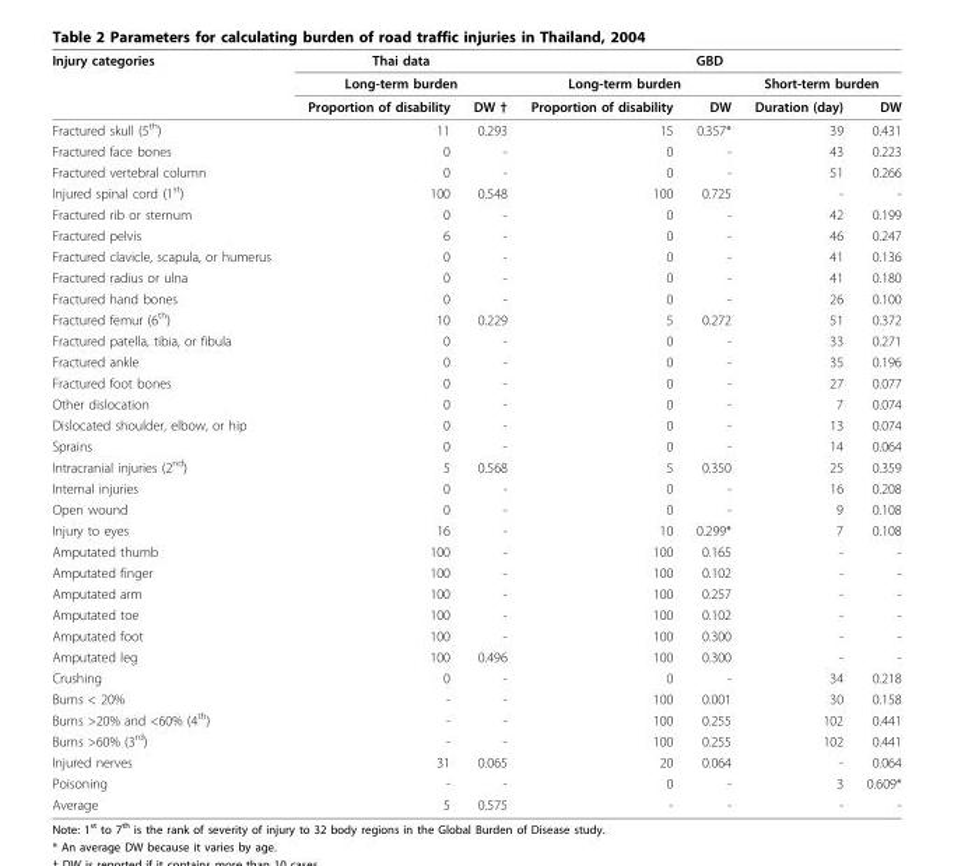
<table><thead><tr><td rowspan="3">Injury categories</td><td rowspan="2" colspan="2">Thai data Long-term burden</td><td colspan="4">GBD</td></tr><tr><td colspan="2">Long-term burden</td><td colspan="2">Short-term burden</td></tr><tr><td>Proportion of disability</td><td>DW †</td><td>Proportion of disability</td><td>DW</td><td>Duration (day)</td><td>DW</td></tr></thead><tbody><tr><td>Fractured skull (5<sup>th</sup>)</td><td>11</td><td>0.293</td><td>15</td><td>0.357*</td><td>39</td><td>0.431</td></tr><tr><td>Fractured face bones</td><td>0</td><td>-</td><td>0</td><td>-</td><td>43</td><td>0.223</td></tr><tr><td>Fractured vertebral column</td><td>0</td><td>-</td><td>0</td><td>-</td><td>51</td><td>0.266</td></tr><tr><td>Injured spinal cord (1<sup>st</sup>)</td><td>100</td><td>0.548</td><td>100</td><td>0.725</td><td>-</td><td>-</td></tr><tr><td>Fractured rib or sternum</td><td>0</td><td>-</td><td>0</td><td>-</td><td>42</td><td>0.199</td></tr><tr><td>Fractured pelvis</td><td>6</td><td>-</td><td>0</td><td>-</td><td>46</td><td>0.247</td></tr><tr><td>Fractured clavicle, scapula, or humerus</td><td>0</td><td>-</td><td>0</td><td>-</td><td>41</td><td>0.136</td></tr><tr><td>Fractured radius or ulna</td><td>0</td><td>-</td><td>0</td><td>-</td><td>41</td><td>0.180</td></tr><tr><td>Fractured hand bones</td><td>0</td><td>-</td><td>0</td><td>-</td><td>26</td><td>0.100</td></tr><tr><td>Fractured femur (6<sup>th</sup>)</td><td>10</td><td>0.229</td><td>5</td><td>0.272</td><td>51</td><td>0.372</td></tr><tr><td>Fractured patella, tibia, or fibula</td><td>0</td><td>-</td><td>0</td><td>-</td><td>33</td><td>0.271</td></tr><tr><td>Fractured ankle</td><td>0</td><td>-</td><td>0</td><td>-</td><td>35</td><td>0.196</td></tr><tr><td>Fractured foot bones</td><td>0</td><td>-</td><td>0</td><td>-</td><td>27</td><td>0.077</td></tr><tr><td>Other dislocation</td><td>0</td><td>-</td><td>0</td><td>-</td><td>7</td><td>0.074</td></tr><tr><td>Dislocated shoulder, elbow, or hip</td><td>0</td><td>-</td><td>0</td><td>-</td><td>13</td><td>0.074</td></tr><tr><td>Sprains</td><td>0</td><td>-</td><td>0</td><td>-</td><td>14</td><td>0.064</td></tr><tr><td>Intracranial injuries (2<sup>nd</sup>)</td><td>5</td><td>0.568</td><td>5</td><td>0.350</td><td>25</td><td>0.359</td></tr><tr><td>Internal injuries</td><td>0</td><td>-</td><td>0</td><td>-</td><td>16</td><td>0.208</td></tr><tr><td>Open wound</td><td>0</td><td>-</td><td>0</td><td>-</td><td>9</td><td>0.108</td></tr><tr><td>Injury to eyes</td><td>16</td><td>-</td><td>10</td><td>0.299*</td><td>7</td><td>0.108</td></tr><tr><td>Amputated thumb</td><td>100</td><td>-</td><td>100</td><td>0.165</td><td>-</td><td>-</td></tr><tr><td>Amputated finger</td><td>100</td><td>-</td><td>100</td><td>0.102</td><td>-</td><td>-</td></tr><tr><td>Amputated arm</td><td>100</td><td>-</td><td>100</td><td>0.257</td><td>-</td><td>-</td></tr><tr><td>Amputated toe</td><td>100</td><td>-</td><td>100</td><td>0.102</td><td>-</td><td>-</td></tr><tr><td>Amputated foot</td><td>100</td><td>-</td><td>100</td><td>0.300</td><td>-</td><td>-</td></tr><tr><td>Amputated leg</td><td>100</td><td>0.496</td><td>100</td><td>0.300</td><td>-</td><td>-</td></tr><tr><td>Crushing</td><td>0</td><td>-</td><td>0</td><td>-</td><td>34</td><td>0.218</td></tr><tr><td>Burns &lt; 20%</td><td>-</td><td>-</td><td>100</td><td>0.001</td><td>30</td><td>0.158</td></tr><tr><td>Burns &gt;20% and &lt;60% (4<sup>th</sup>)</td><td>-</td><td>-</td><td>100</td><td>0.255</td><td>102</td><td>0.441</td></tr><tr><td>Burns &gt;60% (3<sup>rd</sup>)</td><td>-</td><td>-</td><td>100</td><td>0.255</td><td>102</td><td>0.441</td></tr><tr><td>Injured nerves</td><td>31</td><td>0.065</td><td>20</td><td>0.064</td><td>-</td><td>0.064</td></tr><tr><td>Poisoning</td><td>-</td><td>-</td><td>0</td><td>-</td><td>3</td><td>0.609*</td></tr><tr><td>Average</td><td>5</td><td>0.575</td><td>-</td><td>-</td><td>-</td><td>-</td></tr></tbody></table>